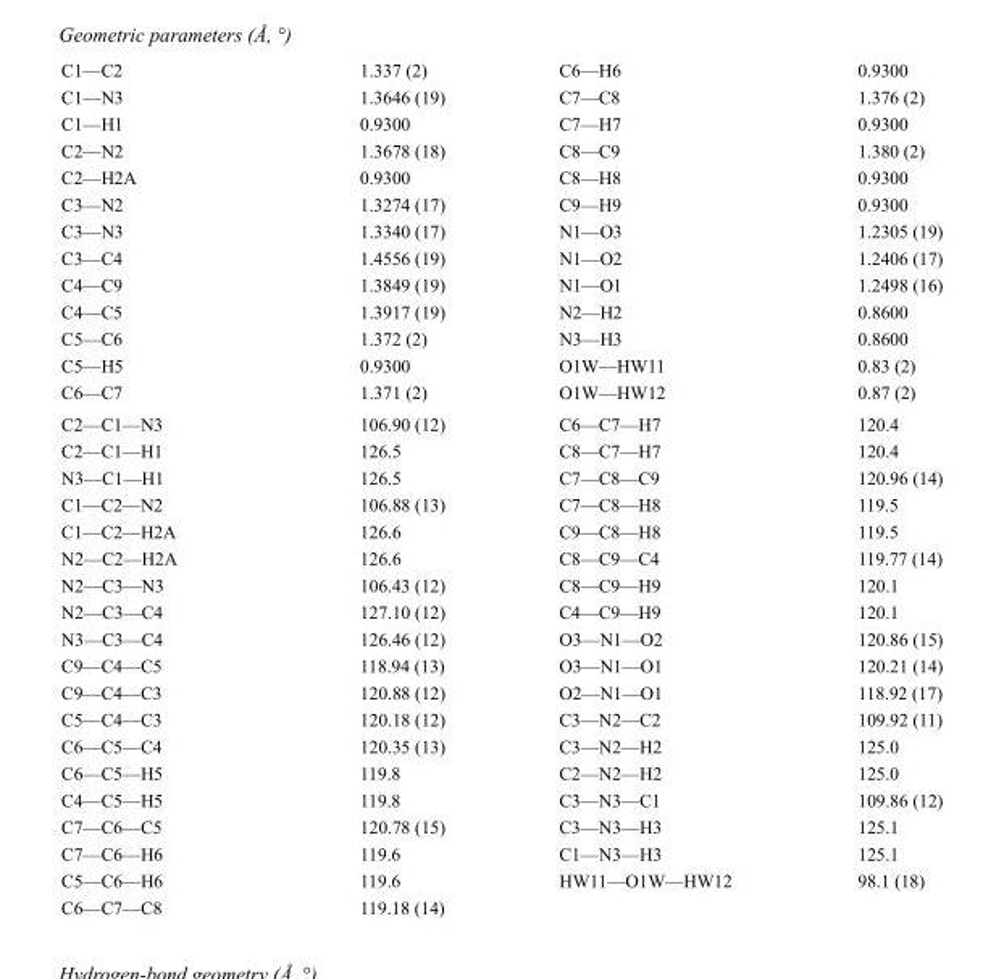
<table><tbody><tr><td>C1—C2</td><td>1.337 (2)</td><td>C6—H6</td><td>0.9300</td></tr><tr><td>C1—N3</td><td>1.3646 (19)</td><td>C7—C8</td><td>1.376 (2)</td></tr><tr><td>C1—H1</td><td>0.9300</td><td>C7—H7</td><td>0.9300</td></tr><tr><td>C2—N2</td><td>1.3678 (18)</td><td>C8—C9</td><td>1.380 (2)</td></tr><tr><td>C2—H2A</td><td>0.9300</td><td>C8—H8</td><td>0.9300</td></tr><tr><td>C3—N2</td><td>1.3274 (17)</td><td>C9—H9</td><td>0.9300</td></tr><tr><td>C3—N3</td><td>1.3340 (17)</td><td>N1—O3</td><td>1.2305 (19)</td></tr><tr><td>C3—C4</td><td>1.4556 (19)</td><td>N1—O2</td><td>1.2406 (17)</td></tr><tr><td>C4—C9</td><td>1.3849 (19)</td><td>N1—O1</td><td>1.2498 (16)</td></tr><tr><td>C4—C5</td><td>1.3917 (19)</td><td>N2—H2</td><td>0.8600</td></tr><tr><td>C5—C6</td><td>1.372 (2)</td><td>N3—H3</td><td>0.8600</td></tr><tr><td>C5—H5</td><td>0.9300</td><td>O1W—HW11</td><td>0.83 (2)</td></tr><tr><td>C6—C7</td><td>1.371 (2)</td><td>O1W—HW12</td><td>0.87 (2)</td></tr><tr><td>C2—C1—N3</td><td>106.90 (12)</td><td>C6—C7—H7</td><td>120.4</td></tr><tr><td>C2—C1—H1</td><td>126.5</td><td>C8—C7—H7</td><td>120.4</td></tr><tr><td>N3—C1—H1</td><td>126.5</td><td>C7—C8—C9</td><td>120.96 (14)</td></tr><tr><td>C1—C2—N2</td><td>106.88 (13)</td><td>C7—C8—H8</td><td>119.5</td></tr><tr><td>C1—C2—H2A</td><td>126.6</td><td>C9—C8—H8</td><td>119.5</td></tr><tr><td>N2—C2—H2A</td><td>126.6</td><td>C8—C9—C4</td><td>119.77 (14)</td></tr><tr><td>N2—C3—N3</td><td>106.43 (12)</td><td>C8—C9—H9</td><td>120.1</td></tr><tr><td>N2—C3—C4</td><td>127.10 (12)</td><td>C4—C9—H9</td><td>120.1</td></tr><tr><td>N3—C3—C4</td><td>126.46 (12)</td><td>O3—N1—O2</td><td>120.86 (15)</td></tr><tr><td>C9—C4—C5</td><td>118.94 (13)</td><td>O3—N1—O1</td><td>120.21 (14)</td></tr><tr><td>C9—C4—C3</td><td>120.88 (12)</td><td>O2—N1—O1</td><td>118.92 (17)</td></tr><tr><td>C5—C4—C3</td><td>120.18 (12)</td><td>C3—N2—C2</td><td>109.92 (11)</td></tr><tr><td>C6—C5—C4</td><td>120.35 (13)</td><td>C3—N2—H2</td><td>125.0</td></tr><tr><td>C6—C5—H5</td><td>119.8</td><td>C2—N2—H2</td><td>125.0</td></tr><tr><td>C4—C5—H5</td><td>119.8</td><td>C3—N3—C1</td><td>109.86 (12)</td></tr><tr><td>C7—C6—C5</td><td>120.78 (15)</td><td>C3—N3—H3</td><td>125.1</td></tr><tr><td>C7—C6—H6</td><td>119.6</td><td>C1—N3—H3</td><td>125.1</td></tr><tr><td>C5—C6—H6</td><td>119.6</td><td>HW11—O1W—HW12</td><td>98.1 (18)</td></tr><tr><td>C6—C7—C8</td><td>119.18 (14)</td><td></td><td></td></tr></tbody></table>